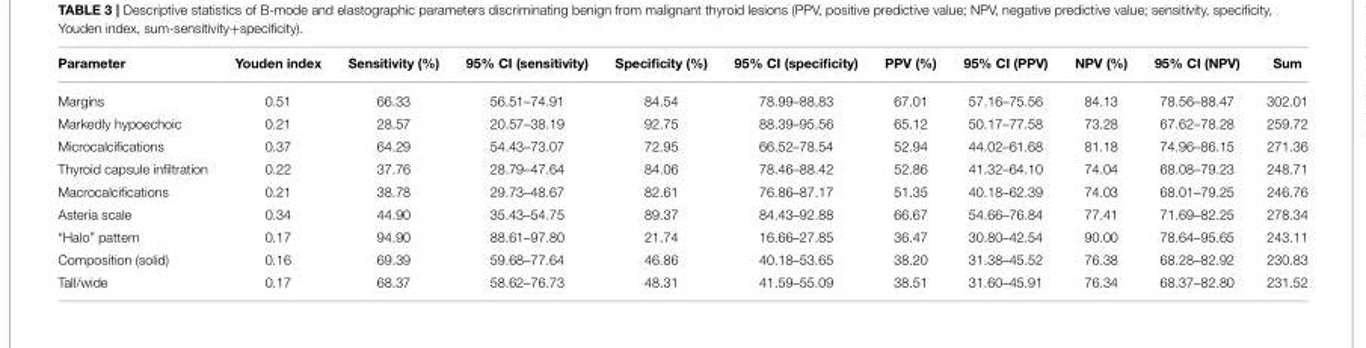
<table><thead><tr><td>Parameter</td><td>Youden index</td><td>Sensitivity (%)</td><td>95% CI (sensitivity)</td><td>Specificity (%)</td><td>95% CI (specificity)</td><td>PPV (%)</td><td>95% CI (PPV)</td><td>NPV (%)</td><td>95% CI (NPV)</td><td>Sum</td></tr></thead><tbody><tr><td>Margins</td><td>0.51</td><td>66.33</td><td>56.51–74.91</td><td>84.54</td><td>78.99–88,83</td><td>67.01</td><td>57.16–75.56</td><td>84.13</td><td>78.56–88.47</td><td>302.01</td></tr><tr><td>Markedly hypoechoic</td><td>0.21</td><td>28.57</td><td>20.57–38.19</td><td>92.75</td><td>88.39–95.56</td><td>65.12</td><td>50.17–77.58</td><td>73.28</td><td>67.62–78.28</td><td>259.72</td></tr><tr><td>Microcalcifications</td><td>0.37</td><td>64.29</td><td>54.43–73.07</td><td>72.95</td><td>66.52–78.54</td><td>52.94</td><td>44.02–61.68</td><td>81.18</td><td>74.96–86.15</td><td>271.36</td></tr><tr><td>Thyroid capsule infiltration</td><td>0.22</td><td>37.76</td><td>28.79–47.64</td><td>84.06</td><td>78.46–88.42</td><td>52.86</td><td>41.32–64.10</td><td>74.04</td><td>68.08–79.23</td><td>248.71</td></tr><tr><td>Macrocalcifications</td><td>0.21</td><td>38.78</td><td>29.73–48.67</td><td>82.61</td><td>76.86–87.17</td><td>51.35</td><td>40.18–62.39</td><td>74.03</td><td>68.01–79.25</td><td>246.76</td></tr><tr><td>Asteria scale</td><td>0.34</td><td>44.90</td><td>35.43–54.75</td><td>89.37</td><td>84.43–92.88</td><td>66.67</td><td>54.66–76.84</td><td>77.41</td><td>71.69–82.25</td><td>278.34</td></tr><tr><td>“Halo” pattern</td><td>0.17</td><td>94.90</td><td>88.61–97.80</td><td>21.74</td><td>16.66–27.85</td><td>36.47</td><td>30.80–42.54</td><td>90.00</td><td>78.64–95.65</td><td>243.11</td></tr><tr><td>Composition (solid)</td><td>0.16</td><td>69.39</td><td>59.68–77.64</td><td>46.86</td><td>40.18–53.65</td><td>38.20</td><td>31.38–45.52</td><td>76.38</td><td>68.28–82.92</td><td>230.83</td></tr><tr><td>Tall/wide</td><td>0.17</td><td>68.37</td><td>58.62–76.73</td><td>48.31</td><td>41.59–55.09</td><td>38.51</td><td>31.60–45.91</td><td>76.34</td><td>68.37–82.80</td><td>231.52</td></tr></tbody></table>